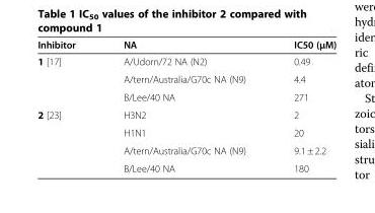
<table><thead><tr><td>Inhibitor</td><td>NA</td><td>IC50 (μM)</td></tr></thead><tbody><tr><td rowspan="3">1 [17]</td><td>A/Udorn/72 NA (N2)</td><td>0.49</td></tr><tr><td>A/tern/Australia/G70c NA (N9)</td><td>4.4</td></tr><tr><td>B/Lee/40 NA</td><td>271</td></tr><tr><td rowspan="4">2 [23]</td><td>H3N2</td><td>2</td></tr><tr><td>H1N1</td><td>20</td></tr><tr><td>A/tern/Australia/G70c NA (N9)</td><td>9.1 ± 2.2</td></tr><tr><td>B/Lee/40 NA</td><td>180</td></tr></tbody></table>